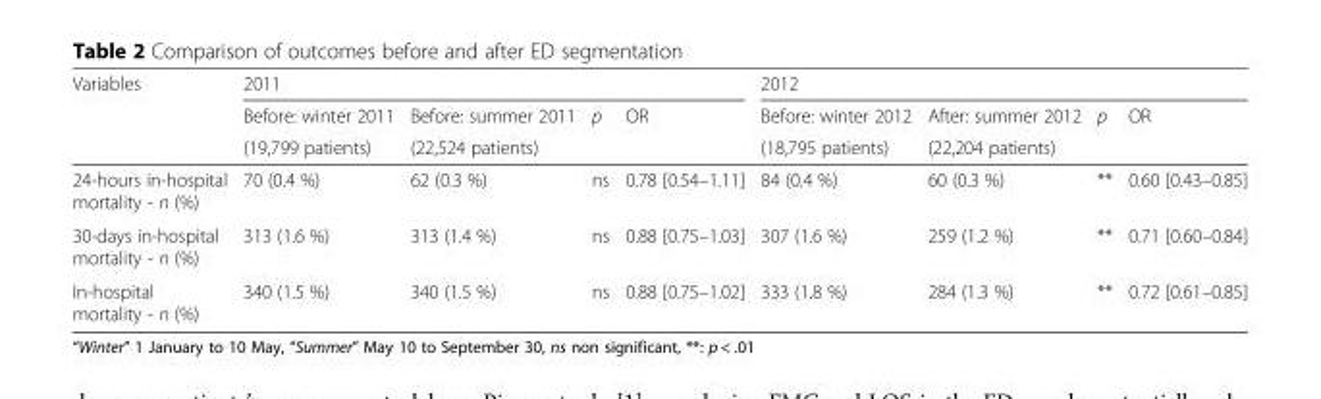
<table><thead><tr><td rowspan="3">Variables</td><td colspan="4">2011</td><td colspan="4">2012</td></tr><tr><td rowspan="2">Before: winter 2011 (19,799 patients)</td><td rowspan="2">Before: summer 2011 (22,524 patients)</td><td rowspan="2">p</td><td rowspan="2">OR</td><td rowspan="2">Before: winter 2012 (18,795 patients)</td><td rowspan="2">After: summer 2012 (22,204 patients)</td><td rowspan="2">p</td><td rowspan="2">OR</td></tr><tr></tr></thead><tbody><tr><td>24-hours in-hospital mortality - n (%)</td><td>70 (0.4 %)</td><td>62 (0.3 %)</td><td>ns</td><td>0.78 [0.54–1.11]</td><td>84 (0.4 %)</td><td>60 (0.3 %)</td><td>**</td><td>0.60 [0.43–0.85]</td></tr><tr><td>30-days in-hospital mortality - n (%)</td><td>313 (1.6 %)</td><td>313 (1.4 %)</td><td>ns</td><td>0.88 [0.75–1.03]</td><td>307 (1.6 %)</td><td>259 (1.2 %)</td><td>**</td><td>0.71 [0.60–0.84]</td></tr><tr><td>In-hospital mortality - n (%)</td><td>340 (1.5 %)</td><td>340 (1.5 %)</td><td>ns</td><td>0.88 [0.75–1.02]</td><td>333 (1.8 %)</td><td>284 (1.3 %)</td><td>**</td><td>0.72 [0.61–0.85]</td></tr></tbody></table>